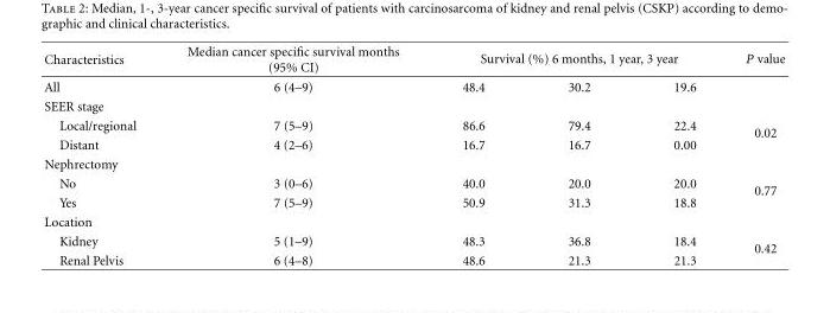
<table><thead><tr><td rowspan="2">Characteristics All</td><td rowspan="2">Median cancer specific survival months (95% CI) 6 (4–9)</td><td colspan="3">Survival (%) 6 months, 1 year, 3 year</td><td rowspan="2">P value</td></tr><tr><td>48.4</td><td>30.2</td><td>19.6</td></tr></thead><tbody><tr><td colspan="6">SEER stage</td></tr><tr><td>Local/regional</td><td>7 (5–9)</td><td>86.6</td><td>79.4</td><td>22.4</td><td rowspan="2">0.02</td></tr><tr><td>Distant</td><td>4 (2–6)</td><td>16.7</td><td>16.7</td><td>0.00</td></tr><tr><td colspan="6">Nephrectomy</td></tr><tr><td>No</td><td>3 (0–6)</td><td>40.0</td><td>20.0</td><td>20.0</td><td rowspan="2">0.77</td></tr><tr><td>Yes</td><td>7 (5–9)</td><td>50.9</td><td>31.3</td><td>18.8</td></tr><tr><td colspan="6">Location</td></tr><tr><td>Kidney</td><td>5 (1–9)</td><td>48.3</td><td>36.8</td><td>18.4</td><td rowspan="2">0.42</td></tr><tr><td>Renal Pelvis</td><td>6 (4–8)</td><td>48.6</td><td>21.3</td><td>21.3</td></tr></tbody></table>